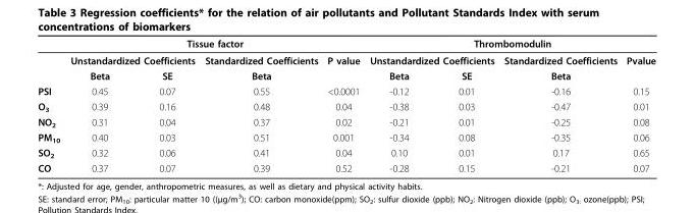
<table><thead><tr><td rowspan="3"></td><td colspan="4">Tissue factor</td><td colspan="4">Thrombomodulin</td></tr><tr><td colspan="2">Unstandardized Coefficients</td><td rowspan="2">Standardized Coefficients Beta</td><td rowspan="2">P value</td><td colspan="2">Unstandardized Coefficients</td><td rowspan="2">Standardized Coefficients Beta</td><td rowspan="2">Pvalue</td></tr><tr><td>Beta</td><td>SE</td><td>Beta</td><td>SE</td></tr></thead><tbody><tr><td>PSI</td><td>0.45</td><td>0.07</td><td>0.55</td><td>&lt;0.0001</td><td>-0.12</td><td>0.01</td><td>-0.16</td><td>0.15</td></tr><tr><td>O<sub>3</sub></td><td>0.39</td><td>0.16</td><td>0.48</td><td>0.04</td><td>-0.38</td><td>0.03</td><td>-0.47</td><td>0.01</td></tr><tr><td>NO<sub>2</sub></td><td>0.31</td><td>0.04</td><td>0.37</td><td>0.02</td><td>-0.21</td><td>0.01</td><td>-0.25</td><td>0.08</td></tr><tr><td>PM<sub>10</sub></td><td>0.40</td><td>0.03</td><td>0.51</td><td>0.001</td><td>-0.34</td><td>0.08</td><td>-0.35</td><td>0.06</td></tr><tr><td>SO<sub>2</sub></td><td>0.32</td><td>0.06</td><td>0.41</td><td>0.04</td><td>0.10</td><td>0.01</td><td>0.17</td><td>0.65</td></tr><tr><td>CO</td><td>0.37</td><td>0.07</td><td>0.39</td><td>0.52</td><td>-0.28</td><td>0.15</td><td>-0.21</td><td>0.07</td></tr></tbody></table>